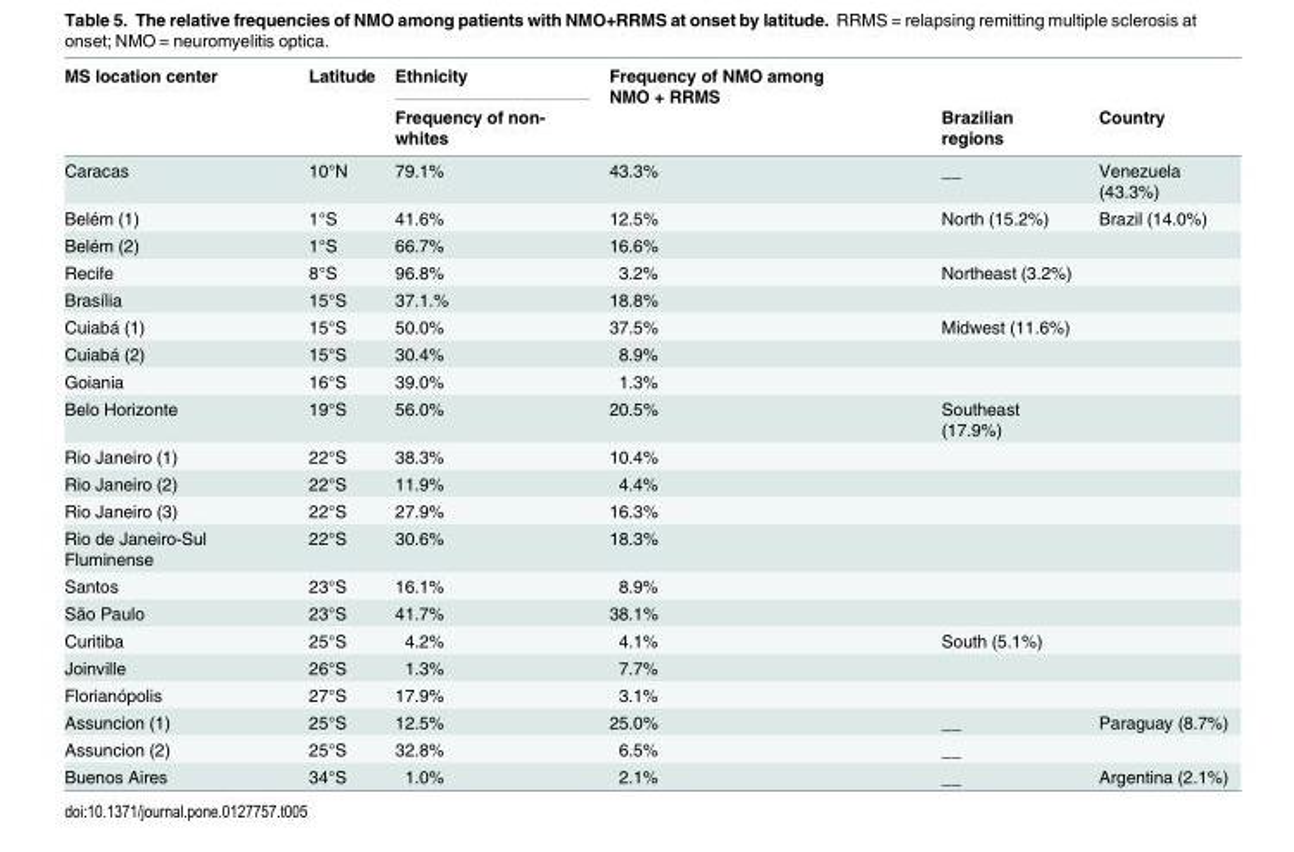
<table><thead><tr><td rowspan="2">MS location center</td><td rowspan="2">Latitude</td><td rowspan="2">Ethnicity Frequency of non- whites</td><td rowspan="2">Frequency of NMO among NMO + RRMS</td><td rowspan="2">Brazilian regions</td><td rowspan="2">Country</td></tr><tr></tr></thead><tbody><tr><td>Caracas</td><td>10°N</td><td>79.1%</td><td>43.3%</td><td>__</td><td>Venezuela (43.3%)</td></tr><tr><td>Belém (1)</td><td>1°S</td><td>41.6%</td><td>12.5%</td><td>North (15.2%)</td><td>Brazil (14.0%)</td></tr><tr><td>Belém (2)</td><td>1°S</td><td>66.7%</td><td>16.6%</td><td></td><td></td></tr><tr><td>Recife</td><td>8°S</td><td>96.8%</td><td>3.2%</td><td>Northeast (3.2%)</td><td></td></tr><tr><td>Brasília</td><td>15°S</td><td>37.1.%</td><td>18.8%</td><td></td><td></td></tr><tr><td>Cuiabá (1)</td><td>15°S</td><td>50.0%</td><td>37.5%</td><td>Midwest (11.6%)</td><td></td></tr><tr><td>Cuiabá (2)</td><td>15°S</td><td>30.4%</td><td>8.9%</td><td></td><td></td></tr><tr><td>Goiania</td><td>16°S</td><td>39.0%</td><td>1.3%</td><td></td><td></td></tr><tr><td>Belo Horizonte</td><td>19°S</td><td>56.0%</td><td>20.5%</td><td>Southeast (17.9%)</td><td></td></tr><tr><td>Rio Janeiro (1)</td><td>22°S</td><td>38.3%</td><td>10.4%</td><td></td><td></td></tr><tr><td>Rio Janeiro (2)</td><td>22°S</td><td>11.9%</td><td>4.4%</td><td></td><td></td></tr><tr><td>Rio Janeiro (3)</td><td>22°S</td><td>27.9%</td><td>16.3%</td><td></td><td></td></tr><tr><td>Rio de Janeiro-Sul Fluminense</td><td>22°S</td><td>30.6%</td><td>18.3%</td><td></td><td></td></tr><tr><td>Santos</td><td>23°S</td><td>16.1%</td><td>8.9%</td><td></td><td></td></tr><tr><td>São Paulo</td><td>23°S</td><td>41.7%</td><td>38.1%</td><td></td><td></td></tr><tr><td>Curitiba</td><td>25°S</td><td>4.2%</td><td>4.1%</td><td>South (5.1%)</td><td></td></tr><tr><td>Joinville</td><td>26°S</td><td>1.3%</td><td>7.7%</td><td></td><td></td></tr><tr><td>Florianópolis</td><td>27°S</td><td>17.9%</td><td>3.1%</td><td></td><td></td></tr><tr><td>Assuncion (1)</td><td>25°S</td><td>12.5%</td><td>25.0%</td><td>__</td><td>Paraguay (8.7%)</td></tr><tr><td>Assuncion (2)</td><td>25°S</td><td>32.8%</td><td>6.5%</td><td>__</td><td></td></tr><tr><td>Buenos Aires</td><td>34°S</td><td>1.0%</td><td>2.1%</td><td>__</td><td>Argentina (2.1%)</td></tr></tbody></table>